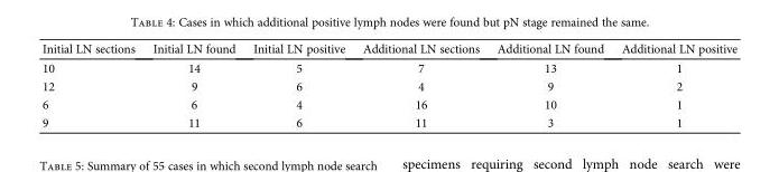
<table><thead><tr><td>Initial LN sections</td><td>Initial LN found</td><td>Initial LN positive</td><td>Additional LN sections</td><td>Additional LN found</td><td>Additional LN positive</td></tr></thead><tbody><tr><td>10</td><td>14</td><td>5</td><td>7</td><td>13</td><td>1</td></tr><tr><td>12</td><td>9</td><td>6</td><td>4</td><td>9</td><td>2</td></tr><tr><td>6</td><td>6</td><td>4</td><td>16</td><td>10</td><td>1</td></tr><tr><td>9</td><td>11</td><td>6</td><td>11</td><td>3</td><td>1</td></tr></tbody></table>